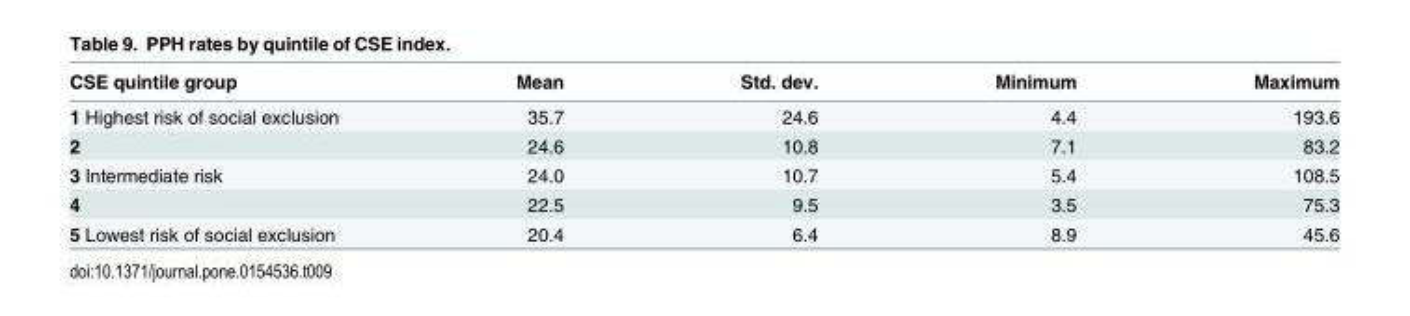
<table><thead><tr><td>CSE quintile group</td><td>Mean</td><td>Std. dev.</td><td>Minimum</td><td>Maximum</td></tr></thead><tbody><tr><td>1 Highest risk of social exclusion</td><td>35.7</td><td>24.6</td><td>4.4</td><td>193.6</td></tr><tr><td>2</td><td>24.6</td><td>10.8</td><td>7.1</td><td>83.2</td></tr><tr><td>3 Intermediate risk</td><td>24.0</td><td>10.7</td><td>5.4</td><td>108.5</td></tr><tr><td>4</td><td>22.5</td><td>9.5</td><td>3.5</td><td>75.3</td></tr><tr><td>5 Lowest risk of social exclusion</td><td>20.4</td><td>6.4</td><td>8.9</td><td>45.6</td></tr></tbody></table>